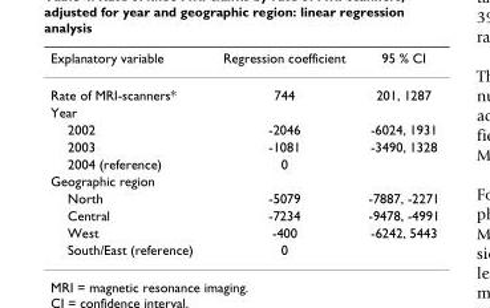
<table><thead><tr><td>Explanatory variable</td><td>Regression coefficient</td><td>95 % CI</td></tr></thead><tbody><tr><td>Rate of MRI-scanners*</td><td>744</td><td>201, 1287</td></tr><tr><td colspan="3">Year</td></tr><tr><td>2002</td><td>-2046</td><td>-6024, 1931</td></tr><tr><td>2003</td><td>-1081</td><td>-3490, 1328</td></tr><tr><td>2004 (reference)</td><td>0</td><td></td></tr><tr><td colspan="3">Geographic region</td></tr><tr><td>North</td><td>-5079</td><td>-7887, -2271</td></tr><tr><td>Central</td><td>-7234</td><td>-9478, -4991</td></tr><tr><td>West</td><td>-400</td><td>-6242, 5443</td></tr><tr><td>South/East (reference)</td><td>0</td><td></td></tr></tbody></table>